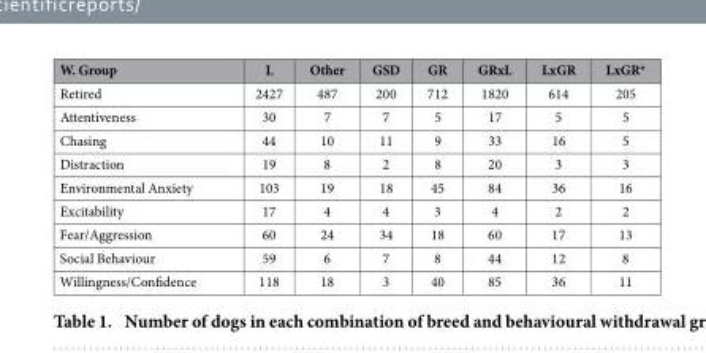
<table><thead><tr><td>W. Group</td><td>L</td><td>Other</td><td>GSD</td><td>GR</td><td>GRxL</td><td>LxGR</td><td>LxGR*</td></tr></thead><tbody><tr><td>Retired</td><td>2427</td><td>487</td><td>200</td><td>712</td><td>1820</td><td>614</td><td>205</td></tr><tr><td>Attentiveness</td><td>30</td><td>7</td><td>7</td><td>5</td><td>17</td><td>5</td><td>5</td></tr><tr><td>Chasing</td><td>44</td><td>10</td><td>11</td><td>9</td><td>33</td><td>16</td><td>5</td></tr><tr><td>Distraction</td><td>19</td><td>8</td><td>2</td><td>8</td><td>20</td><td>3</td><td>3</td></tr><tr><td>Environmental Anxiety</td><td>103</td><td>19</td><td>18</td><td>45</td><td>84</td><td>36</td><td>16</td></tr><tr><td>Excitability</td><td>17</td><td>4</td><td>4</td><td>3</td><td>4</td><td>2</td><td>2</td></tr><tr><td>Fear/Aggression</td><td>60</td><td>24</td><td>34</td><td>18</td><td>60</td><td>17</td><td>13</td></tr><tr><td>Social Behaviour</td><td>59</td><td>6</td><td>7</td><td>8</td><td>44</td><td>12</td><td>8</td></tr><tr><td>Willingness/Confidence</td><td>118</td><td>18</td><td>3</td><td>40</td><td>85</td><td>36</td><td>11</td></tr></tbody></table>